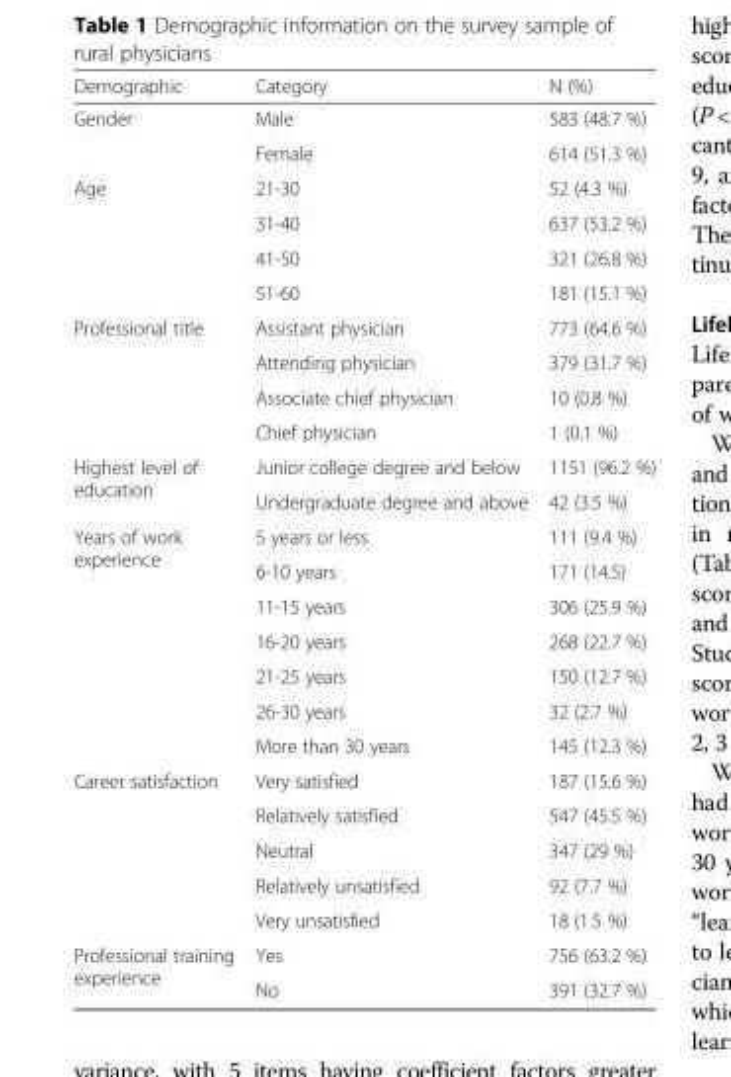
<table><thead><tr><td>Demographic</td><td>Category</td><td>N (%)</td></tr></thead><tbody><tr><td rowspan="2">Gender</td><td>Male</td><td>583 (48.7 %)</td></tr><tr><td>Female</td><td>614 (51.3 %)</td></tr><tr><td rowspan="4">Age</td><td>21-30</td><td>52 (4.3 %)</td></tr><tr><td>31-40</td><td>637 (53.2 %)</td></tr><tr><td>41-50</td><td>321 (26.8 %)</td></tr><tr><td>51-60</td><td>181 (15.1 %)</td></tr><tr><td rowspan="4">Professional title</td><td>Assistant physician</td><td>773 (64.6 %)</td></tr><tr><td>Attending physician</td><td>379 (31.7 %)</td></tr><tr><td>Associate chief physician</td><td>10 (0.8 %)</td></tr><tr><td>Chief physician</td><td>1 (0.1 %)</td></tr><tr><td rowspan="2">Highest level of education</td><td>Junior college degree and below</td><td>1151 (96.2 %)</td></tr><tr><td>Undergraduate degree and above</td><td>42 (3.5 %)</td></tr><tr><td rowspan="7">Years of work experience</td><td>5 years or less</td><td>111 (9.4 %)</td></tr><tr><td>6-10 years</td><td>171 (14.5)</td></tr><tr><td>11-15 years</td><td>306 (25.9 %)</td></tr><tr><td>16-20 years</td><td>268 (22.7 %)</td></tr><tr><td>21-25 years</td><td>150 (12.7 %)</td></tr><tr><td>26-30 years</td><td>32 (2.7 %)</td></tr><tr><td>More than 30 years</td><td>145 (12.3 %)</td></tr><tr><td rowspan="5">Career satisfaction</td><td>Very satisfied</td><td>187 (15.6 %)</td></tr><tr><td>Relatively satisfied</td><td>547 (45.5 %)</td></tr><tr><td>Neutral</td><td>347 (29 %)</td></tr><tr><td>Relatively unsatisfied</td><td>92 (7.7 %)</td></tr><tr><td>Very unsatisfied</td><td>18 (1.5 %)</td></tr><tr><td rowspan="2">Professional training experience</td><td>Yes</td><td>756 (63.2 %)</td></tr><tr><td>No</td><td>391 (32.7 %)</td></tr></tbody></table>